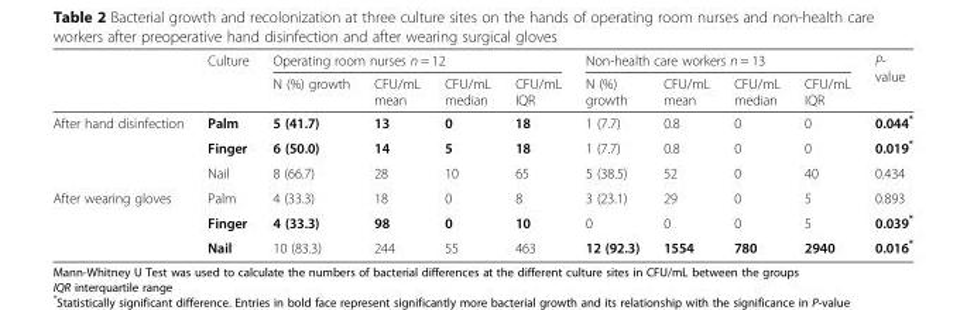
<table><thead><tr><td rowspan="2"></td><td rowspan="2">Culture</td><td colspan="4">Operating room nurses n = 12</td><td colspan="4">Non-health care workers n = 13</td><td rowspan="2">P- value</td></tr><tr><td>N (%) growth</td><td>CFU/mL mean</td><td>CFU/mL median</td><td>CFU/mL IQR</td><td>N (%) growth</td><td>CFU/mL mean</td><td>CFU/mL median</td><td>CFU/mL IQR</td></tr></thead><tbody><tr><td rowspan="3">After hand disinfection</td><td>Palm</td><td>5 (41.7)</td><td>13</td><td>0</td><td>18</td><td>1 (7.7)</td><td>0.8</td><td>0</td><td>0</td><td>0.044*</td></tr><tr><td>Finger</td><td>6 (50.0)</td><td>14</td><td>5</td><td>18</td><td>1 (7.7)</td><td>0.8</td><td>0</td><td>0</td><td>0.019*</td></tr><tr><td>Nail</td><td>8 (66.7)</td><td>28</td><td>10</td><td>65</td><td>5 (38.5)</td><td>52</td><td>0</td><td>40</td><td>0.434</td></tr><tr><td rowspan="3">After wearing gloves</td><td>Palm</td><td>4 (33.3)</td><td>18</td><td>0</td><td>8</td><td>3 (23.1)</td><td>29</td><td>0</td><td>5</td><td>0.893</td></tr><tr><td>Finger</td><td>4 (33.3)</td><td>98</td><td>0</td><td>10</td><td>0</td><td>0</td><td>0</td><td>5</td><td>0.039*</td></tr><tr><td>Nail</td><td>10 (83.3)</td><td>244</td><td>55</td><td>463</td><td>12 (92.3)</td><td>1554</td><td>780</td><td>2940</td><td>0.016*</td></tr></tbody></table>